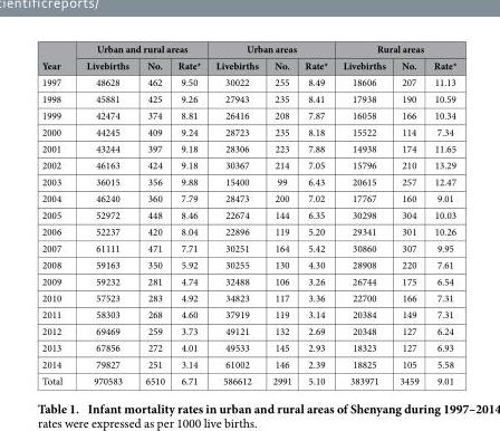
<table><thead><tr><td rowspan="2">Year</td><td colspan="3">Urban and rural areas</td><td colspan="3">Urban areas</td><td colspan="3">Rural areas</td></tr><tr><td>Livebirths</td><td>No.</td><td>Rate*</td><td>Livebirths</td><td>No.</td><td>Rate*</td><td>Livebirths</td><td>No.</td><td>Rate*</td></tr></thead><tbody><tr><td>1997</td><td>48628</td><td>462</td><td>9.50</td><td>30022</td><td>255</td><td>8.49</td><td>18606</td><td>207</td><td>11.13</td></tr><tr><td>1998</td><td>45881</td><td>425</td><td>9.26</td><td>27943</td><td>235</td><td>8.41</td><td>17938</td><td>190</td><td>10.59</td></tr><tr><td>1999</td><td>42474</td><td>374</td><td>8.81</td><td>26416</td><td>208</td><td>7.87</td><td>16058</td><td>166</td><td>10.34</td></tr><tr><td>2000</td><td>44245</td><td>409</td><td>9.24</td><td>28723</td><td>235</td><td>8.18</td><td>15522</td><td>114</td><td>7.34</td></tr><tr><td>2001</td><td>43244</td><td>397</td><td>9.18</td><td>28306</td><td>223</td><td>7.88</td><td>14938</td><td>174</td><td>11.65</td></tr><tr><td>2002</td><td>46163</td><td>424</td><td>9.18</td><td>30367</td><td>214</td><td>7.05</td><td>15796</td><td>210</td><td>13.29</td></tr><tr><td>2003</td><td>36015</td><td>356</td><td>9.88</td><td>15400</td><td>99</td><td>6.43</td><td>20615</td><td>257</td><td>12.47</td></tr><tr><td>2004</td><td>46240</td><td>360</td><td>7.79</td><td>28473</td><td>200</td><td>7.02</td><td>17767</td><td>160</td><td>9.01</td></tr><tr><td>2005</td><td>52972</td><td>448</td><td>8.46</td><td>22674</td><td>144</td><td>6.35</td><td>30298</td><td>304</td><td>10.03</td></tr><tr><td>2006</td><td>52237</td><td>420</td><td>8.04</td><td>22896</td><td>119</td><td>5.20</td><td>29341</td><td>301</td><td>10.26</td></tr><tr><td>2007</td><td>61111</td><td>471</td><td>7.71</td><td>30251</td><td>164</td><td>5.42</td><td>30860</td><td>307</td><td>9.95</td></tr><tr><td>2008</td><td>59163</td><td>350</td><td>5.92</td><td>30255</td><td>130</td><td>4.30</td><td>28908</td><td>220</td><td>7.61</td></tr><tr><td>2009</td><td>59232</td><td>281</td><td>4.74</td><td>32488</td><td>106</td><td>3.26</td><td>26744</td><td>175</td><td>6.54</td></tr><tr><td>2010</td><td>57523</td><td>283</td><td>4.92</td><td>34823</td><td>117</td><td>3.36</td><td>22700</td><td>166</td><td>7.31</td></tr><tr><td>2011</td><td>58303</td><td>268</td><td>4.60</td><td>37919</td><td>119</td><td>3.14</td><td>20384</td><td>149</td><td>7.31</td></tr><tr><td>2012</td><td>69469</td><td>259</td><td>3.73</td><td>49121</td><td>132</td><td>2.69</td><td>20348</td><td>127</td><td>6.24</td></tr><tr><td>2013</td><td>67856</td><td>272</td><td>4.01</td><td>49533</td><td>145</td><td>2.93</td><td>18323</td><td>127</td><td>6.93</td></tr><tr><td>2014</td><td>79827</td><td>251</td><td>3.14</td><td>61002</td><td>146</td><td>2.39</td><td>18825</td><td>105</td><td>5.58</td></tr><tr><td>Total</td><td>970583</td><td>6510</td><td>6.71</td><td>586612</td><td>2991</td><td>5.10</td><td>383971</td><td>3459</td><td>9.01</td></tr></tbody></table>